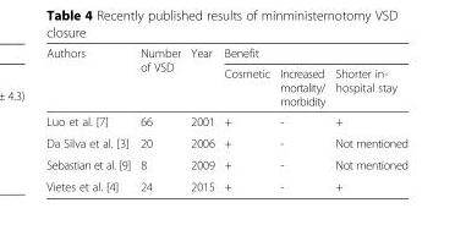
<table><thead><tr><td rowspan="2">Authors</td><td rowspan="2">Number of VSD</td><td rowspan="2">Year</td><td colspan="3">Benefit</td></tr><tr><td>Cosmetic</td><td>Increased mortality/ morbidity</td><td>Shorter in- hospital stay</td></tr></thead><tbody><tr><td>Luo et al. [7]</td><td>66</td><td>2001</td><td>+</td><td>-</td><td>+</td></tr><tr><td>Da Silva et al. [3]</td><td>20</td><td>2006</td><td>+</td><td>-</td><td>Not mentioned</td></tr><tr><td>Sebastian et al. [9]</td><td>8</td><td>2009</td><td>+</td><td>-</td><td>Not mentioned</td></tr><tr><td>Vietes et al. [4]</td><td>24</td><td>2015</td><td>+</td><td>-</td><td>+</td></tr></tbody></table>